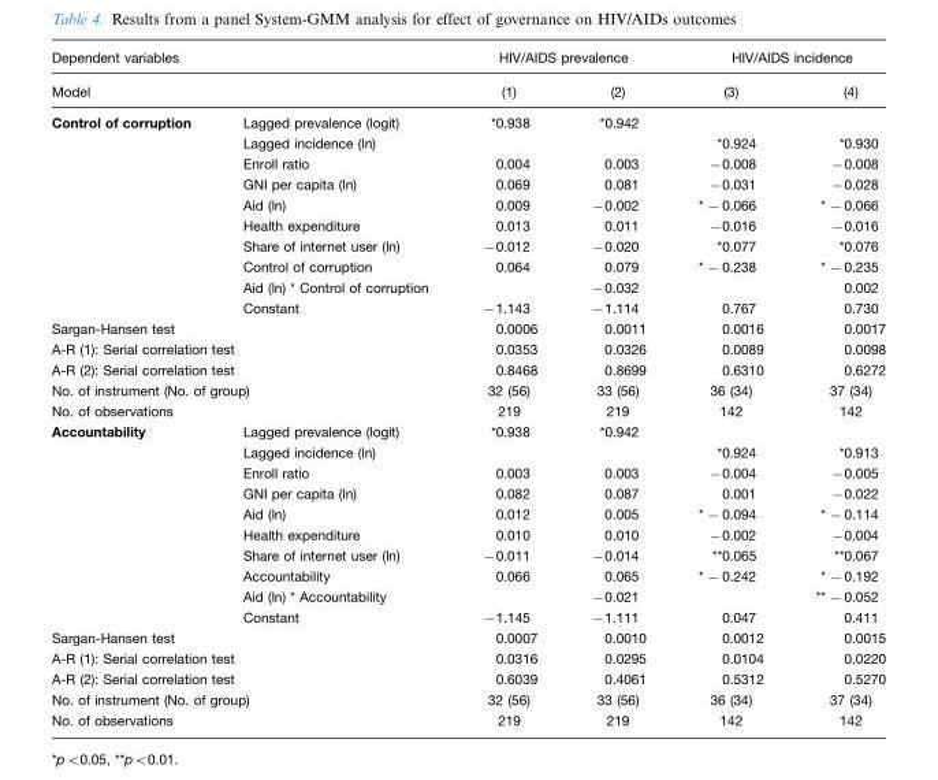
<table><thead><tr><td rowspan="2" colspan="2">Dependent variables Model</td><td colspan="2">HIV/AIDS prevalence</td><td colspan="2">HIV/AIDS incidence</td></tr><tr><td rowspan="2">(1) *0.938</td><td rowspan="2">(2) *0.942</td><td rowspan="2">(3)</td><td rowspan="2">(4)</td></tr><tr><td>Control of corruption</td><td>Lagged prevalence (logit)</td></tr></thead><tbody><tr><td></td><td>Lagged incidence (ln)</td><td></td><td></td><td>*0.924</td><td>*0.930</td></tr><tr><td></td><td>Enroll ratio</td><td>0.004</td><td>0.003</td><td>−0.008</td><td>−0.008</td></tr><tr><td></td><td>GNI per capita (ln)</td><td>0.069</td><td>0.081</td><td>−0.031</td><td>−0.028</td></tr><tr><td></td><td>Aid (ln)</td><td>0.009</td><td>−0.002</td><td>* −0.066</td><td>* −0.066</td></tr><tr><td></td><td>Health expenditure</td><td>0.013</td><td>0.011</td><td>−0.016</td><td>−0.016</td></tr><tr><td></td><td>Share of internet user (ln)</td><td>−0.012</td><td>−0.020</td><td>*0.077</td><td>*0.076</td></tr><tr><td></td><td>Control of corruption</td><td>0.064</td><td>0.079</td><td>* −0.238</td><td>* −0.235</td></tr><tr><td></td><td>Aid (ln) * Control of corruption</td><td></td><td>−0.032</td><td></td><td>0.002</td></tr><tr><td></td><td>Constant</td><td>−1.143</td><td>−1.114</td><td>0.767</td><td>0.730</td></tr><tr><td colspan="2">Sargan-Hansen test</td><td>0.0006</td><td>0.0011</td><td>0.0016</td><td>0.0017</td></tr><tr><td colspan="2">A-R (1): Serial correlation test</td><td>0.0353</td><td>0.0326</td><td>0.0089</td><td>0.0098</td></tr><tr><td colspan="2">A-R (2): Serial correlation test</td><td>0.8468</td><td>0.8699</td><td>0.6310</td><td>0.6272</td></tr><tr><td colspan="2">No. of instrument (No. of group)</td><td>32 (56)</td><td>33 (56)</td><td>36 (34)</td><td>37 (34)</td></tr><tr><td colspan="2">No. of observations</td><td>219</td><td>219</td><td>142</td><td>142</td></tr><tr><td rowspan="10">Accountability</td><td>Lagged prevalence (logit)</td><td>*0.938</td><td>*0.942</td><td></td><td></td></tr><tr><td>Lagged incidence (ln)</td><td></td><td></td><td>*0.924</td><td>*0.913</td></tr><tr><td>Enroll ratio</td><td>0.003</td><td>0.003</td><td>−0.004</td><td>−0.005</td></tr><tr><td>GNI per capita (ln)</td><td>0.082</td><td>0.087</td><td>0.001</td><td>−0.022</td></tr><tr><td>Aid (ln)</td><td>0.012</td><td>0.005</td><td>* −0.094</td><td>* −0.114</td></tr><tr><td>Health expenditure</td><td>0.010</td><td>0.010</td><td>−0.002</td><td>−0.004</td></tr><tr><td>Share of internet user (ln)</td><td>−0.011</td><td>−0.014</td><td>**0.065</td><td>**0.067</td></tr><tr><td>Accountability</td><td>0.066</td><td>0.065</td><td>* −0.242</td><td>* −0.192</td></tr><tr><td>Aid (ln) * Accountability</td><td></td><td>−0.021</td><td></td><td>** −0.052</td></tr><tr><td>Constant</td><td>−1.145</td><td>−1.111</td><td>0.047</td><td>0.411</td></tr><tr><td colspan="2">Sargan-Hansen test</td><td>0.0007</td><td>0.0010</td><td>0.0012</td><td>0.0015</td></tr><tr><td colspan="2">A-R (1): Serial correlation test</td><td>0.0316</td><td>0.0295</td><td>0.0104</td><td>0.0220</td></tr><tr><td colspan="2">A-R (2): Serial correlation test</td><td>0.6039</td><td>0.4061</td><td>0.5312</td><td>0.5270</td></tr><tr><td colspan="2">No. of instrument (No. of group)</td><td>32 (56)</td><td>33 (56)</td><td>36 (34)</td><td>37 (34)</td></tr><tr><td colspan="2">No. of observations</td><td>219</td><td>219</td><td>142</td><td>142</td></tr></tbody></table>